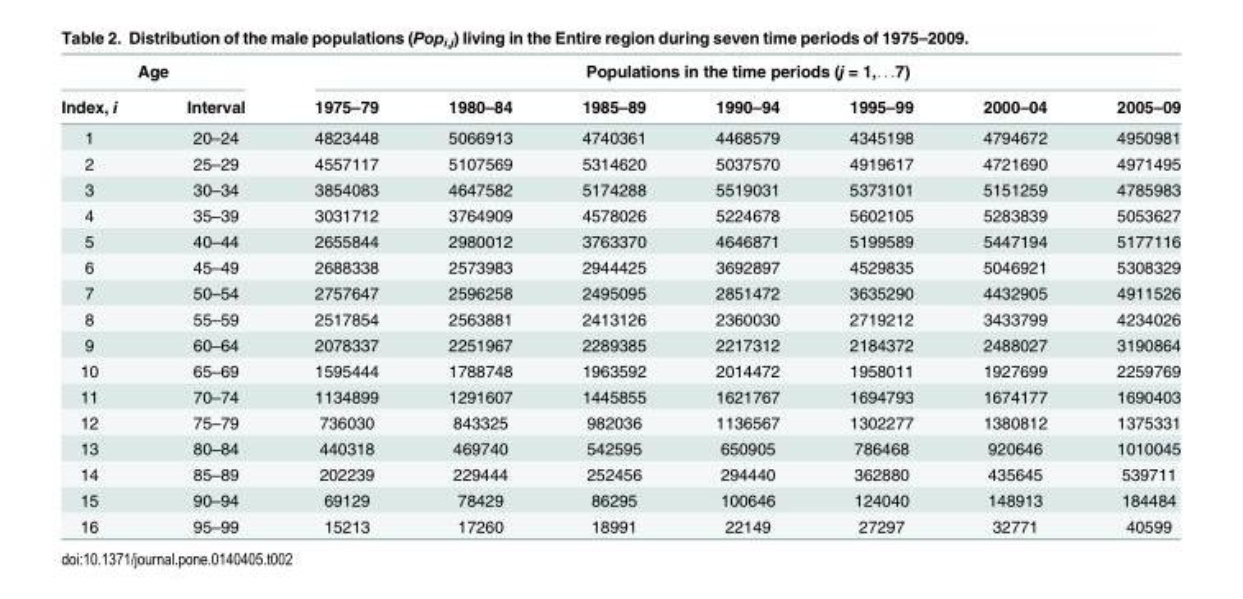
<table><thead><tr><td colspan="2">Age</td><td colspan="7">Populations in the time periods (j = 1,. . .7)</td></tr><tr><td>Index, i</td><td>Interval</td><td>1975–79</td><td>1980–84</td><td>1985–89</td><td>1990–94</td><td>1995–99</td><td>2000–04</td><td>2005–09</td></tr></thead><tbody><tr><td>1</td><td>20–24</td><td>4823448</td><td>5066913</td><td>4740361</td><td>4468579</td><td>4345198</td><td>4794672</td><td>4950981</td></tr><tr><td>2</td><td>25–29</td><td>4557117</td><td>5107569</td><td>5314620</td><td>5037570</td><td>4919617</td><td>4721690</td><td>4971495</td></tr><tr><td>3</td><td>30–34</td><td>3854083</td><td>4647582</td><td>5174288</td><td>5519031</td><td>5373101</td><td>5151259</td><td>4785983</td></tr><tr><td>4</td><td>35–39</td><td>3031712</td><td>3764909</td><td>4578026</td><td>5224678</td><td>5602105</td><td>5283839</td><td>5053627</td></tr><tr><td>5</td><td>40–44</td><td>2655844</td><td>2980012</td><td>3763370</td><td>4646871</td><td>5199589</td><td>5447194</td><td>5177116</td></tr><tr><td>6</td><td>45–49</td><td>2688338</td><td>2573983</td><td>2944425</td><td>3692897</td><td>4529835</td><td>5046921</td><td>5308329</td></tr><tr><td>7</td><td>50–54</td><td>2757647</td><td>2596258</td><td>2495095</td><td>2851472</td><td>3635290</td><td>4432905</td><td>4911526</td></tr><tr><td>8</td><td>55–59</td><td>2517854</td><td>2563881</td><td>2413126</td><td>2360030</td><td>2719212</td><td>3433799</td><td>4234026</td></tr><tr><td>9</td><td>60–64</td><td>2078337</td><td>2251967</td><td>2289385</td><td>2217312</td><td>2184372</td><td>2488027</td><td>3190864</td></tr><tr><td>10</td><td>65–69</td><td>1595444</td><td>1788748</td><td>1963592</td><td>2014472</td><td>1958011</td><td>1927699</td><td>2259769</td></tr><tr><td>11</td><td>70–74</td><td>1134899</td><td>1291607</td><td>1445855</td><td>1621767</td><td>1694793</td><td>1674177</td><td>1690403</td></tr><tr><td>12</td><td>75–79</td><td>736030</td><td>843325</td><td>982036</td><td>1136567</td><td>1302277</td><td>1380812</td><td>1375331</td></tr><tr><td>13</td><td>80–84</td><td>440318</td><td>469740</td><td>542595</td><td>650905</td><td>786468</td><td>920646</td><td>1010045</td></tr><tr><td>14</td><td>85–89</td><td>202239</td><td>229444</td><td>252456</td><td>294440</td><td>362880</td><td>435645</td><td>539711</td></tr><tr><td>15</td><td>90–94</td><td>69129</td><td>78429</td><td>86295</td><td>100646</td><td>124040</td><td>148913</td><td>184484</td></tr><tr><td>16</td><td>95–99</td><td>15213</td><td>17260</td><td>18991</td><td>22149</td><td>27297</td><td>32771</td><td>40599</td></tr></tbody></table>